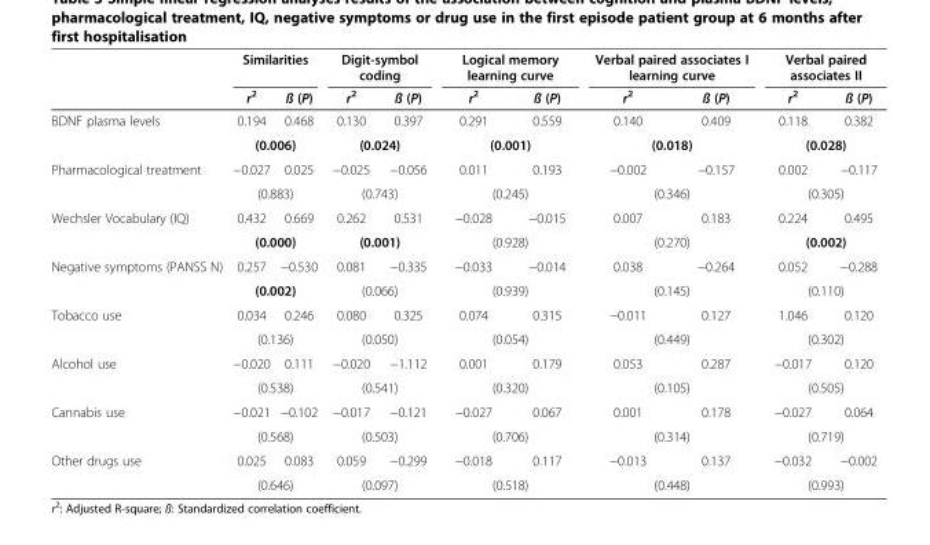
<table><thead><tr><td rowspan="2"></td><td colspan="2">Similarities</td><td colspan="2">Digit-symbol coding</td><td colspan="2">Logical memory learning curve</td><td colspan="2">Verbal paired associates I learning curve</td><td colspan="2">Verbal paired associates II</td></tr><tr><td>r<sup>2</sup></td><td>ß (P)</td><td>r<sup>2</sup></td><td>ß (P)</td><td>r<sup>2</sup></td><td>ß (P)</td><td>r<sup>2</sup></td><td>ß (P)</td><td>r<sup>2</sup></td><td>ß (P)</td></tr></thead><tbody><tr><td rowspan="2">BDNF plasma levels</td><td>0.194</td><td>0.468</td><td>0.130</td><td>0.397</td><td>0.291</td><td>0.559</td><td>0.140</td><td>0.409</td><td>0.118</td><td>0.382</td></tr><tr><td colspan="2">(0.006)</td><td colspan="2">(0.024)</td><td colspan="2">(0.001)</td><td colspan="2">(0.018)</td><td colspan="2">(0.028)</td></tr><tr><td rowspan="2">Pharmacological treatment</td><td>−0.027</td><td>0.025</td><td>−0.025</td><td>−0.056</td><td>0.011</td><td>0.193</td><td>−0.002</td><td>−0.157</td><td>0.002</td><td>−0.117</td></tr><tr><td colspan="2">(0.883)</td><td colspan="2">(0.743)</td><td colspan="2">(0.245)</td><td colspan="2">(0.346)</td><td colspan="2">(0.305)</td></tr><tr><td rowspan="2">Wechsler Vocabulary (IQ)</td><td>0.432</td><td>0.669</td><td>0.262</td><td>0.531</td><td>−0.028</td><td>−0.015</td><td>0.007</td><td>0.183</td><td>0.224</td><td>0.495</td></tr><tr><td colspan="2">(0.000)</td><td colspan="2">(0.001)</td><td colspan="2">(0.928)</td><td colspan="2">(0.270)</td><td colspan="2">(0.002)</td></tr><tr><td rowspan="2">Negative symptoms (PANSS N)</td><td>0.257</td><td>−0.530</td><td>0.081</td><td>−0.335</td><td>−0.033</td><td>−0.014</td><td>0.038</td><td>−0.264</td><td>0.052</td><td>−0.288</td></tr><tr><td colspan="2">(0.002)</td><td colspan="2">(0.066)</td><td colspan="2">(0.939)</td><td colspan="2">(0.145)</td><td colspan="2">(0.110)</td></tr><tr><td rowspan="2">Tobacco use</td><td>0.034</td><td>0.246</td><td>0.080</td><td>0.325</td><td>0.074</td><td>0.315</td><td>−0.011</td><td>0.127</td><td>1.046</td><td>0.120</td></tr><tr><td colspan="2">(0.136)</td><td colspan="2">(0.050)</td><td colspan="2">(0.054)</td><td colspan="2">(0.449)</td><td colspan="2">(0.302)</td></tr><tr><td rowspan="2">Alcohol use</td><td>−0.020</td><td>0.111</td><td>−0.020</td><td>−1.112</td><td>0.001</td><td>0.179</td><td>0.053</td><td>0.287</td><td>−0.017</td><td>0.120</td></tr><tr><td colspan="2">(0.538)</td><td colspan="2">(0.541)</td><td colspan="2">(0.320)</td><td colspan="2">(0.105)</td><td colspan="2">(0.505)</td></tr><tr><td rowspan="2">Cannabis use</td><td>−0.021</td><td>−0.102</td><td>−0.017</td><td>−0.121</td><td>−0.027</td><td>0.067</td><td>0.001</td><td>0.178</td><td>−0.027</td><td>0.064</td></tr><tr><td colspan="2">(0.568)</td><td colspan="2">(0.503)</td><td colspan="2">(0.706)</td><td colspan="2">(0.314)</td><td colspan="2">(0.719)</td></tr><tr><td rowspan="2">Other drugs use</td><td>0.025</td><td>0.083</td><td>0.059</td><td>−0.299</td><td>−0.018</td><td>0.117</td><td>−0.013</td><td>0.137</td><td>−0.032</td><td>−0.002</td></tr><tr><td colspan="2">(0.646)</td><td colspan="2">(0.097)</td><td colspan="2">(0.518)</td><td colspan="2">(0.448)</td><td colspan="2">(0.993)</td></tr></tbody></table>